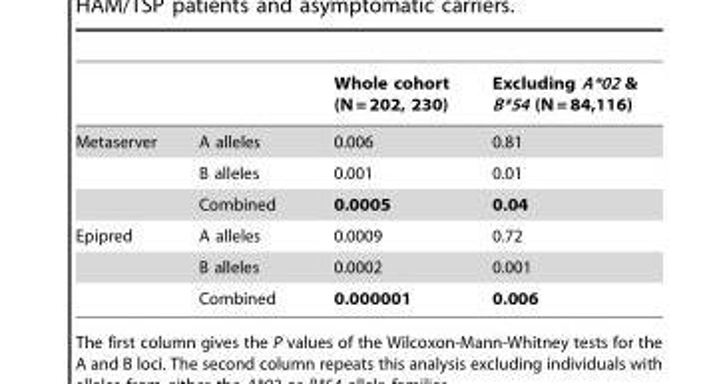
<table><thead><tr><td></td><td></td><td>Whole cohort (N = 202, 230)</td><td>Excluding A*02 &amp; B*54 (N = 84,116)</td></tr></thead><tbody><tr><td rowspan="3">Metaserver</td><td>A alleles</td><td>0.006</td><td>0.81</td></tr><tr><td>B alleles</td><td>0.001</td><td>0.01</td></tr><tr><td>Combined</td><td>0.0005</td><td>0.04</td></tr><tr><td rowspan="3">Epipred</td><td>A alleles</td><td>0.0009</td><td>0.72</td></tr><tr><td>B alleles</td><td>0.0002</td><td>0.001</td></tr><tr><td>Combined</td><td>0.000001</td><td>0.006</td></tr></tbody></table>